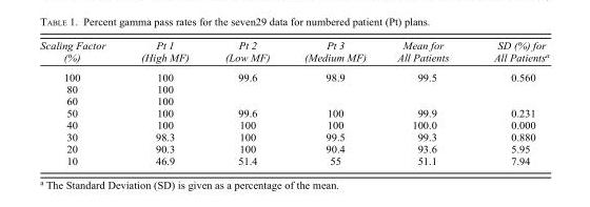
<table><thead><tr><td>Scaling Factor (%)</td><td>Pt 1 (High MF)</td><td>Pt 2 (Low MF)</td><td>Pt 3 (Medium MF)</td><td>Mean for All Patients</td><td>SD (%) for All Patients<sup>a</sup></td></tr></thead><tbody><tr><td>100</td><td>100</td><td>99.6</td><td>98.9</td><td>99.5</td><td>0.560</td></tr><tr><td>80</td><td>100</td><td></td><td></td><td></td><td></td></tr><tr><td>60</td><td>100</td><td></td><td></td><td></td><td></td></tr><tr><td>50</td><td>100</td><td>99.6</td><td>100</td><td>99.9</td><td>0.231</td></tr><tr><td>40</td><td>100</td><td>100</td><td>100</td><td>100.0</td><td>0.000</td></tr><tr><td>30</td><td>98.3</td><td>100</td><td>99.5</td><td>99.3</td><td>0.880</td></tr><tr><td>20</td><td>90.3</td><td>100</td><td>90.4</td><td>93.6</td><td>5.95</td></tr><tr><td>10</td><td>46.9</td><td>51.4</td><td>55</td><td>51.1</td><td>7.94</td></tr></tbody></table>